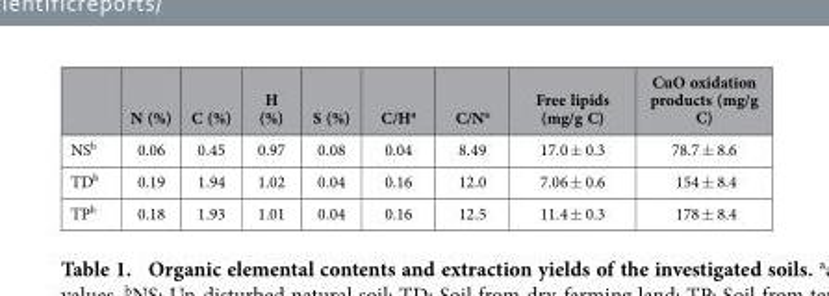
<table><thead><tr><td></td><td>N (%)</td><td>C (%)</td><td>H (%)</td><td>S (%)</td><td>C/H<sup>a</sup></td><td>C/N<sup>a</sup></td><td>Free lipids (mg/g C)</td><td>CuO oxidation products (mg/g C)</td></tr></thead><tbody><tr><td>NS<sup>b</sup></td><td>0.06</td><td>0.45</td><td>0.97</td><td>0.08</td><td>0.04</td><td>8.49</td><td>17.0 ± 0.3</td><td>78.7 ± 8.6</td></tr><tr><td>TD<sup>b</sup></td><td>0.19</td><td>1.94</td><td>1.02</td><td>0.04</td><td>0.16</td><td>12.0</td><td>7.06 ± 0.6</td><td>154 ± 8.4</td></tr><tr><td>TP<sup>b</sup></td><td>0.18</td><td>1.93</td><td>1.01</td><td>0.04</td><td>0.16</td><td>12.5</td><td>11.4 ± 0.3</td><td>178 ± 8.4</td></tr></tbody></table>